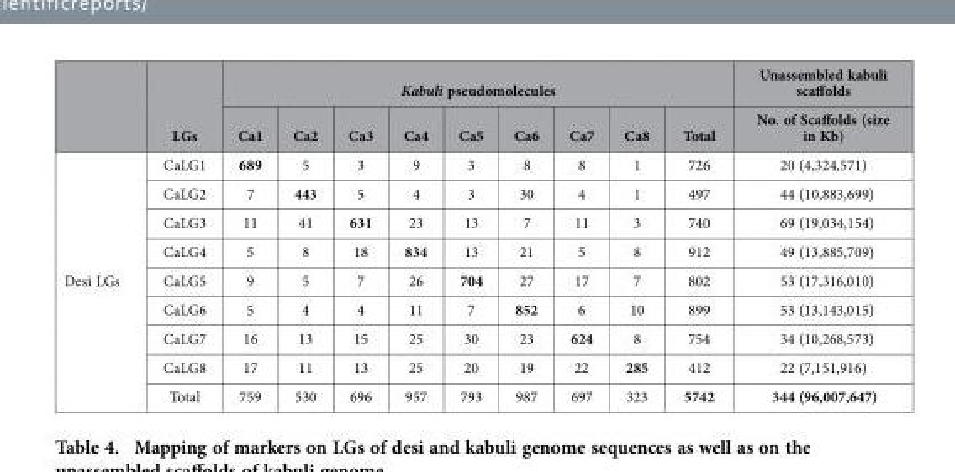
<table><thead><tr><td rowspan="2"></td><td rowspan="2">LGs</td><td colspan="9">Kabuli pseudomolecules</td><td rowspan="2">Unassembled kabuli scaffolds No. of Scaffolds (size in Kb)</td></tr><tr><td>Ca1</td><td>Ca2</td><td>Ca3</td><td>Ca4</td><td>Ca5</td><td>Ca6</td><td>Ca7</td><td>Ca8</td><td>Total</td></tr></thead><tbody><tr><td rowspan="9">Desi LGs</td><td>CaLG1</td><td>689</td><td>5</td><td>3</td><td>9</td><td>3</td><td>8</td><td>8</td><td>1</td><td>726</td><td>20 (4,324,571)</td></tr><tr><td>CaLG2</td><td>7</td><td>443</td><td>5</td><td>4</td><td>3</td><td>30</td><td>4</td><td>1</td><td>497</td><td>44 (10,883,699)</td></tr><tr><td>CaLG3</td><td>11</td><td>41</td><td>631</td><td>23</td><td>13</td><td>7</td><td>11</td><td>3</td><td>740</td><td>69 (19,034,154)</td></tr><tr><td>CaLG4</td><td>5</td><td>8</td><td>18</td><td>834</td><td>13</td><td>21</td><td>5</td><td>8</td><td>912</td><td>49 (13,885,709)</td></tr><tr><td>CaLG5</td><td>9</td><td>5</td><td>7</td><td>26</td><td>704</td><td>27</td><td>17</td><td>7</td><td>802</td><td>53 (17,316,010)</td></tr><tr><td>CaLG6</td><td>5</td><td>4</td><td>4</td><td>11</td><td>7</td><td>852</td><td>6</td><td>10</td><td>899</td><td>53 (13,143,015)</td></tr><tr><td>CaLG7</td><td>16</td><td>13</td><td>15</td><td>25</td><td>30</td><td>23</td><td>624</td><td>8</td><td>754</td><td>34 (10,268,573)</td></tr><tr><td>CaLG8</td><td>17</td><td>11</td><td>13</td><td>25</td><td>20</td><td>19</td><td>22</td><td>285</td><td>412</td><td>22 (7,151,916)</td></tr><tr><td>Total</td><td>759</td><td>530</td><td>696</td><td>957</td><td>793</td><td>987</td><td>697</td><td>323</td><td>5742</td><td>344 (96,007,647)</td></tr></tbody></table>